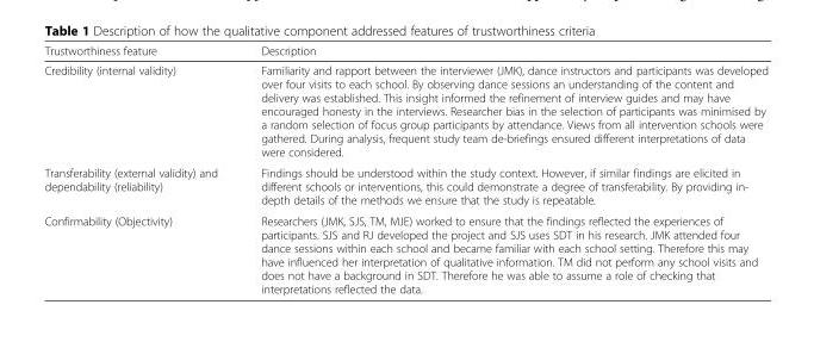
<table><thead><tr><td>Trustworthiness feature</td><td>Description</td></tr></thead><tbody><tr><td>Credibility (internal validity)</td><td>Familiarity and rapport between the interviewer (JMK), dance instructors and participants was developed over four visits to each school. By observing dance sessions an understanding of the content and delivery was established. This insight informed the refinement of interview guides and may have encouraged honesty in the interviews. Researcher bias in the selection of participants was minimised by a random selection of focus group participants by attendance. Views from all intervention schools were gathered. During analysis, frequent study team de-briefings ensured different interpretations of data were considered.</td></tr><tr><td>Transferability (external validity) and dependability (reliability)</td><td>Findings should be understood within the study context. However, if similar findings are elicited in different schools or interventions, this could demonstrate a degree of transferability. By providing in- depth details of the methods we ensure that the study is repeatable.</td></tr><tr><td>Confirmability (Objectivity)</td><td>Researchers (JMK, SJS, TM, MJE) worked to ensure that the findings reflected the experiences of participants. SJS and RJ developed the project and SJS uses SDT in his research. JMK attended four dance sessions within each school and became familiar with each school setting. Therefore this may have influenced her interpretation of qualitative information. TM did not perform any school visits and does not have a background in SDT. Therefore he was able to assume a role of checking that interpretations reflected the data.</td></tr></tbody></table>